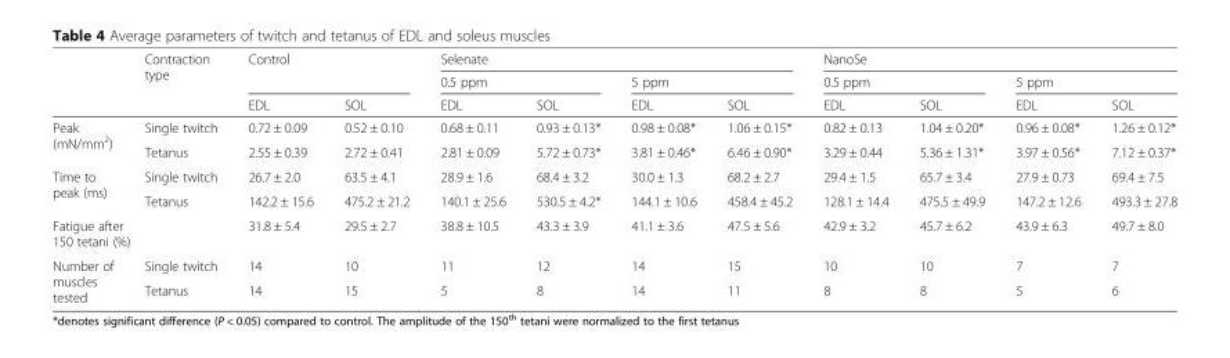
<table><thead><tr><td rowspan="3"></td><td rowspan="3">Contraction type</td><td rowspan="2" colspan="2">Control</td><td colspan="4">Selenate</td><td colspan="4">NanoSe</td></tr><tr><td colspan="2">0.5 ppm</td><td colspan="2">5 ppm</td><td colspan="2">0.5 ppm</td><td colspan="2">5 ppm</td></tr><tr><td>EDL</td><td>SOL</td><td>EDL</td><td>SOL</td><td>EDL</td><td>SOL</td><td>EDL</td><td>SOL</td><td>EDL</td><td>SOL</td></tr></thead><tbody><tr><td rowspan="2">Peak (mN/mm<sup>2</sup>)</td><td>Single twitch</td><td>0.72 ± 0.09</td><td>0.52 ± 0.10</td><td>0.68 ± 0.11</td><td>0.93 ± 0.13*</td><td>0.98 ± 0.08*</td><td>1.06 ± 0.15*</td><td>0.82 ± 0.13</td><td>1.04 ± 0.20*</td><td>0.96 ± 0.08*</td><td>1.26 ± 0.12*</td></tr><tr><td>Tetanus</td><td>2.55 ± 0.39</td><td>2.72 ± 0.41</td><td>2.81 ± 0.09</td><td>5.72 ± 0.73*</td><td>3.81 ± 0.46*</td><td>6.46 ± 0.90*</td><td>3.29 ± 0.44</td><td>5.36 ± 1.31*</td><td>3.97 ± 0.56*</td><td>7.12 ± 0.37*</td></tr><tr><td rowspan="2">Time to peak (ms)</td><td>Single twitch</td><td>26.7 ± 2.0</td><td>63.5 ± 4.1</td><td>28.9 ± 1.6</td><td>68.4 ± 3.2</td><td>30.0 ± 1.3</td><td>68.2 ± 2.7</td><td>29.4 ± 1.5</td><td>65.7 ± 3.4</td><td>27.9 ± 0.73</td><td>69.4 ± 7.5</td></tr><tr><td>Tetanus</td><td>142.2 ± 15.6</td><td>475.2 ± 21.2</td><td>140.1 ± 25.6</td><td>530.5 ± 4.2*</td><td>144.1 ± 10.6</td><td>458.4 ± 45.2</td><td>128.1 ± 14.4</td><td>475.5 ± 49.9</td><td>147.2 ± 12.6</td><td>493.3 ± 27.8</td></tr><tr><td colspan="2">Fatigue after 150 tetani (%)</td><td>31.8 ± 5.4</td><td>29.5 ± 2.7</td><td>38.8 ± 10.5</td><td>43.3 ± 3.9</td><td>41.1 ± 3.6</td><td>47.5 ± 5.6</td><td>42.9 ± 3.2</td><td>45.7 ± 6.2</td><td>43.9 ± 6.3</td><td>49.7 ± 8.0</td></tr><tr><td rowspan="2">Number of muscles tested</td><td>Single twitch</td><td>14</td><td>10</td><td>11</td><td>12</td><td>14</td><td>15</td><td>10</td><td>10</td><td>7</td><td>7</td></tr><tr><td>Tetanus</td><td>14</td><td>15</td><td>5</td><td>8</td><td>14</td><td>11</td><td>8</td><td>8</td><td>5</td><td>6</td></tr></tbody></table>